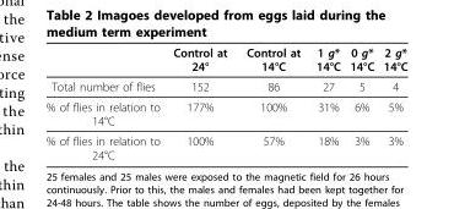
<table><thead><tr><td></td><td>Control at 24°</td><td>Control at 14°C</td><td>1 g* 14°C</td><td>0 g* 14°C</td><td>2 g* 14°C</td></tr></thead><tbody><tr><td>Total number of flies</td><td>152</td><td>86</td><td>27</td><td>5</td><td>4</td></tr><tr><td>% of flies in relation to 14°C</td><td>177%</td><td>100%</td><td>31%</td><td>6%</td><td>5%</td></tr><tr><td>% of flies in relation to 24°C</td><td>100%</td><td>57%</td><td>18%</td><td>3%</td><td>3%</td></tr></tbody></table>